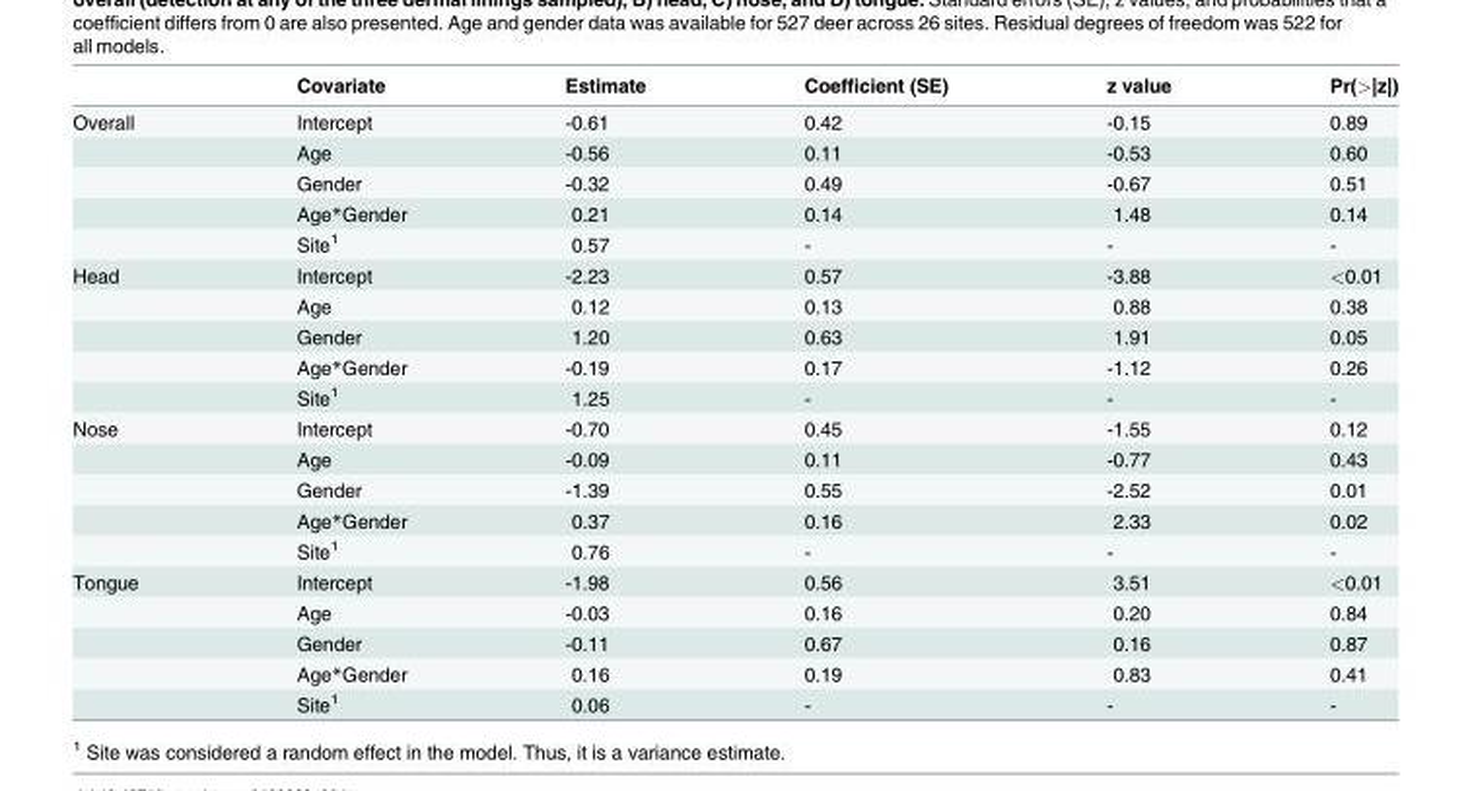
<table><thead><tr><td></td><td>Covariate</td><td>Estimate</td><td>Coefficient (SE)</td><td>z value</td><td>Pr(&gt;|z|)</td></tr></thead><tbody><tr><td rowspan="5">Overall</td><td>Intercept</td><td>-0.61</td><td>0.42</td><td>-0.15</td><td>0.89</td></tr><tr><td>Age</td><td>-0.56</td><td>0.11</td><td>-0.53</td><td>0.60</td></tr><tr><td>Gender</td><td>-0.32</td><td>0.49</td><td>-0.67</td><td>0.51</td></tr><tr><td>Age*Gender</td><td>0.21</td><td>0.14</td><td>1.48</td><td>0.14</td></tr><tr><td>Site<sup>1</sup></td><td>0.57</td><td>-</td><td>-</td><td>-</td></tr><tr><td rowspan="5">Head</td><td>Intercept</td><td>-2.23</td><td>0.57</td><td>-3.88</td><td>&lt;0.01</td></tr><tr><td>Age</td><td>0.12</td><td>0.13</td><td>0.88</td><td>0.38</td></tr><tr><td>Gender</td><td>1.20</td><td>0.63</td><td>1.91</td><td>0.05</td></tr><tr><td>Age*Gender</td><td>-0.19</td><td>0.17</td><td>-1.12</td><td>0.26</td></tr><tr><td>Site<sup>1</sup></td><td>1.25</td><td>-</td><td>-</td><td>-</td></tr><tr><td rowspan="5">Nose</td><td>Intercept</td><td>-0.70</td><td>0.45</td><td>-1.55</td><td>0.12</td></tr><tr><td>Age</td><td>-0.09</td><td>0.11</td><td>-0.77</td><td>0.43</td></tr><tr><td>Gender</td><td>-1.39</td><td>0.55</td><td>-2.52</td><td>0.01</td></tr><tr><td>Age*Gender</td><td>0.37</td><td>0.16</td><td>2.33</td><td>0.02</td></tr><tr><td>Site<sup>1</sup></td><td>0.76</td><td>-</td><td>-</td><td>-</td></tr><tr><td rowspan="5">Tongue</td><td>Intercept</td><td>-1.98</td><td>0.56</td><td>3.51</td><td>&lt;0.01</td></tr><tr><td>Age</td><td>-0.03</td><td>0.16</td><td>0.20</td><td>0.84</td></tr><tr><td>Gender</td><td>-0.11</td><td>0.67</td><td>0.16</td><td>0.87</td></tr><tr><td>Age*Gender</td><td>0.16</td><td>0.19</td><td>0.83</td><td>0.41</td></tr><tr><td>Site<sup>1</sup></td><td>0.06</td><td>-</td><td>-</td><td>-</td></tr></tbody></table>